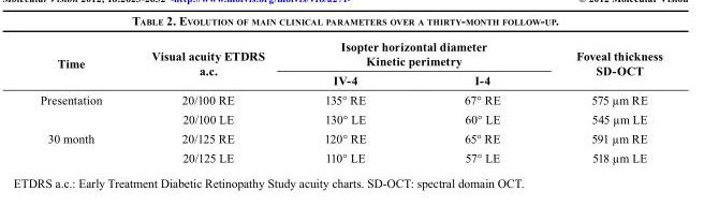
<table><thead><tr><td rowspan="2">Time</td><td rowspan="2">Visual acuity ETDRS a.c.</td><td colspan="2">Isopter horizontal diameter Kinetic perimetry</td><td rowspan="2">Foveal thickness SD-OCT</td></tr><tr><td>IV-4</td><td>I-4</td></tr></thead><tbody><tr><td rowspan="2">Presentation</td><td>20/100 RE</td><td>135° RE</td><td>67° RE</td><td>575 µm RE</td></tr><tr><td>20/100 LE</td><td>130° LE</td><td>60° LE</td><td>545 µm LE</td></tr><tr><td rowspan="2">30 month</td><td>20/125 RE</td><td>120° RE</td><td>65° RE</td><td>591 µm RE</td></tr><tr><td>20/125 LE</td><td>110° LE</td><td>57° LE</td><td>518 µm LE</td></tr></tbody></table>